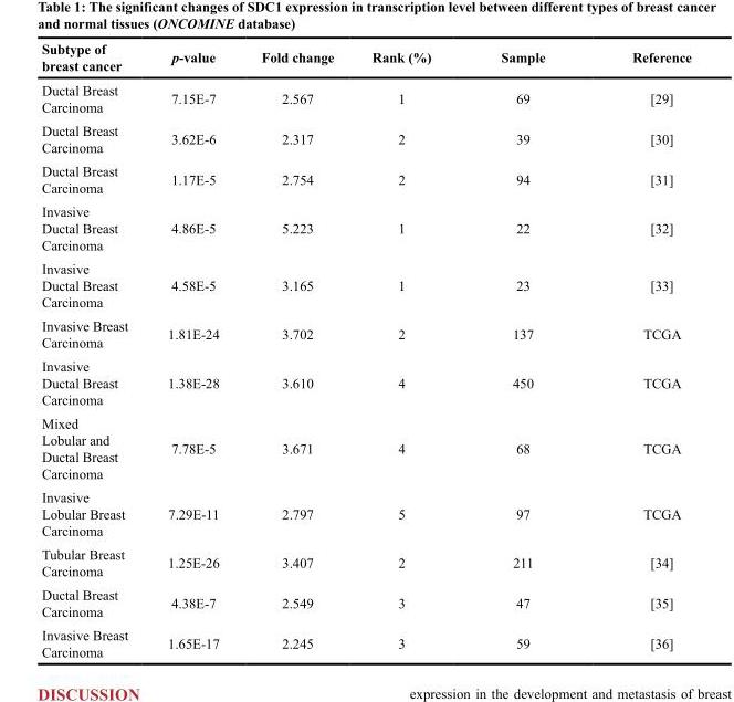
<table><thead><tr><td>Subtype of breast cancer</td><td>p-value</td><td>Fold change</td><td>Rank (%)</td><td>Sample</td><td>Reference</td></tr></thead><tbody><tr><td>Ductal Breast Carcinoma</td><td>7.15E-7</td><td>2.567</td><td>1</td><td>69</td><td>[29]</td></tr><tr><td>Ductal Breast Carcinoma</td><td>3.62E-6</td><td>2.317</td><td>2</td><td>39</td><td>[30]</td></tr><tr><td>Ductal Breast Carcinoma</td><td>1.17E-5</td><td>2.754</td><td>2</td><td>94</td><td>[31]</td></tr><tr><td>Invasive Ductal Breast Carcinoma</td><td>4.86E-5</td><td>5.223</td><td>1</td><td>22</td><td>[32]</td></tr><tr><td>Invasive Ductal Breast Carcinoma</td><td>4.58E-5</td><td>3.165</td><td>1</td><td>23</td><td>[33]</td></tr><tr><td>Invasive Breast Carcinoma</td><td>1.81E-24</td><td>3.702</td><td>2</td><td>137</td><td>TCGA</td></tr><tr><td>Invasive Ductal Breast Carcinoma</td><td>1.38E-28</td><td>3.610</td><td>4</td><td>450</td><td>TCGA</td></tr><tr><td>Mixed Lobular and Ductal Breast Carcinoma</td><td>7.78E-5</td><td>3.671</td><td>4</td><td>68</td><td>TCGA</td></tr><tr><td>Invasive Lobular Breast Carcinoma</td><td>7.29E-11</td><td>2.797</td><td>5</td><td>97</td><td>TCGA</td></tr><tr><td>Tubular Breast Carcinoma</td><td>1.25E-26</td><td>3.407</td><td>2</td><td>211</td><td>[34]</td></tr><tr><td>Ductal Breast Carcinoma</td><td>4.38E-7</td><td>2.549</td><td>3</td><td>47</td><td>[35]</td></tr><tr><td>Invasive Breast Carcinoma</td><td>1.65E-17</td><td>2.245</td><td>3</td><td>59</td><td>[36]</td></tr></tbody></table>